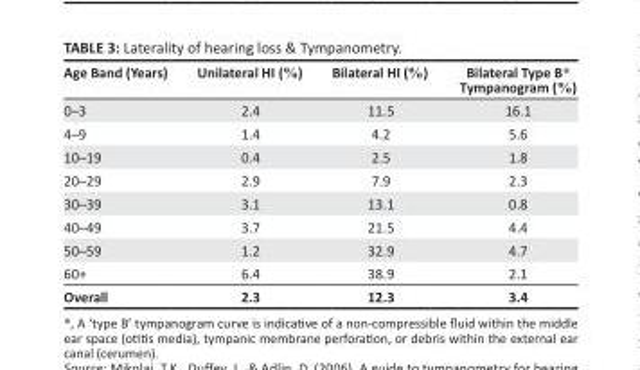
<table><thead><tr><td>Age Band (Years)</td><td>Unilateral HI (%)</td><td>Bilateral HI (%)</td><td>Bilateral Type B* Tympanogram (%)</td></tr></thead><tbody><tr><td>0–3</td><td>2.4</td><td>11.5</td><td>16.1</td></tr><tr><td>4–9</td><td>1.4</td><td>4.2</td><td>5.6</td></tr><tr><td>10–19</td><td>0.4</td><td>2.5</td><td>1.8</td></tr><tr><td>20–29</td><td>2.9</td><td>7.9</td><td>2.3</td></tr><tr><td>30–39</td><td>3.1</td><td>13.1</td><td>0.8</td></tr><tr><td>40–49</td><td>3.7</td><td>21.5</td><td>4.4</td></tr><tr><td>50–59</td><td>1.2</td><td>32.9</td><td>4.7</td></tr><tr><td>60+</td><td>6.4</td><td>38.9</td><td>2.1</td></tr><tr><td>Overall</td><td>2.3</td><td>12.3</td><td>3.4</td></tr></tbody></table>